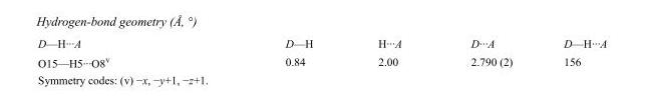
<table><tbody><tr><td>D—H···A</td><td>D—H</td><td>H···A</td><td>D···A</td><td>D—H···A</td></tr><tr><td>O15—H5···O8<sup>v</sup></td><td>0.84</td><td>2.00</td><td>2.790 (2)</td><td>156</td></tr></tbody></table>